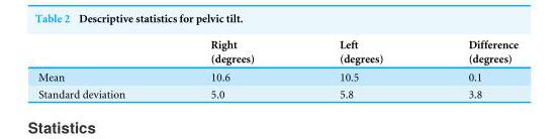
<table><thead><tr><td></td><td>Right (degrees)</td><td>Left (degrees)</td><td>Difference (degrees)</td></tr></thead><tbody><tr><td>Mean</td><td>10.6</td><td>10.5</td><td>0.1</td></tr><tr><td>Standard deviation</td><td>5.0</td><td>5.8</td><td>3.8</td></tr></tbody></table>